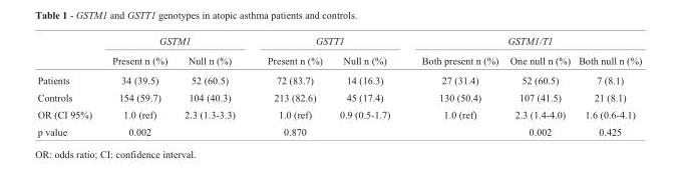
<table><thead><tr><td rowspan="2"></td><td colspan="2">GSTM1</td><td colspan="2">GSTT1</td><td colspan="3">GSTM1/T1</td></tr><tr><td>Present n (%)</td><td>Null n (%)</td><td>Present n (%)</td><td>Null n (%)</td><td>Both present n (%)</td><td>One null n (%)</td><td>Both null n (%)</td></tr></thead><tbody><tr><td>Patients</td><td>34 (39.5)</td><td>52 (60.5)</td><td>72 (83.7)</td><td>14 (16.3)</td><td>27 (31.4)</td><td>52 (60.5)</td><td>7 (8.1)</td></tr><tr><td>Controls</td><td>154 (59.7)</td><td>104 (40.3)</td><td>213 (82.6)</td><td>45 (17.4)</td><td>130 (50.4)</td><td>107 (41.5)</td><td>21 (8.1)</td></tr><tr><td>OR (CI 95%)</td><td>1.0 (ref)</td><td>2.3 (1.3-3.3)</td><td>1.0 (ref)</td><td>0.9 (0.5-1.7)</td><td>1.0 (ref)</td><td>2.3 (1.4-4.0)</td><td>1.6 (0.6-4.1)</td></tr><tr><td>p value</td><td>0.002</td><td></td><td>0.870</td><td></td><td></td><td>0.002</td><td>0.425</td></tr></tbody></table>